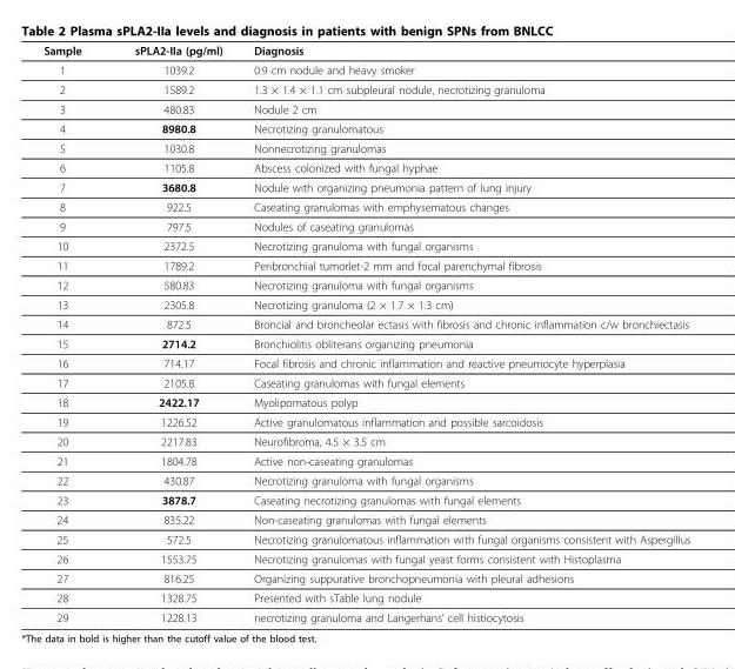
<table><thead><tr><td>Sample</td><td>sPLA2-IIa (pg/ml)</td><td>Diagnosis</td></tr></thead><tbody><tr><td>1</td><td>1039.2</td><td>0.9 cm nodule and heavy smoker</td></tr><tr><td>2</td><td>1589.2</td><td>1.3 × 1.4 × 1.1 cm subpleural nodule, necrotizing granuloma</td></tr><tr><td>3</td><td>480.83</td><td>Nodule 2 cm</td></tr><tr><td>4</td><td>8980.8</td><td>Necrotizing granulomatous</td></tr><tr><td>5</td><td>1030.8</td><td>Nonnecrotizing granulomas</td></tr><tr><td>6</td><td>1105.8</td><td>Abscess colonized with fungal hyphae</td></tr><tr><td>7</td><td>3680.8</td><td>Nodule with organizing pneumonia pattern of lung injury</td></tr><tr><td>8</td><td>922.5</td><td>Caseating granulomas with emphysematous changes</td></tr><tr><td>9</td><td>797.5</td><td>Nodules of caseating granulomas</td></tr><tr><td>10</td><td>2372.5</td><td>Necrotizing granuloma with fungal organisms</td></tr><tr><td>11</td><td>1789.2</td><td>Peribronchial tumorlet-2 mm and focal parenchymal fibrosis</td></tr><tr><td>12</td><td>580.83</td><td>Necrotizing granuloma with fungal organisms</td></tr><tr><td>13</td><td>2305.8</td><td>Necrotizing granuloma (2 × 1.7 × 1.3 cm)</td></tr><tr><td>14</td><td>872.5</td><td>Broncial and broncheolar ectasis with fibrosis and chronic inflammation c/w bronchiectasis</td></tr><tr><td>15</td><td>2714.2</td><td>Bronchiolitis obliterans organizing pneumonia</td></tr><tr><td>16</td><td>714.17</td><td>Focal fibrosis and chronic inflammation and reactive pneumocyte hyperplasia</td></tr><tr><td>17</td><td>2105.8</td><td>Caseating granulomas with fungal elements</td></tr><tr><td>18</td><td>2422.17</td><td>Myolipomatous polyp</td></tr><tr><td>19</td><td>1226.52</td><td>Active granulomatous inflammation and possible sarcoidosis</td></tr><tr><td>20</td><td>2217.83</td><td>Neurofibroma, 4.5 × 3.5 cm</td></tr><tr><td>21</td><td>1804.78</td><td>Active non-caseating granulomas</td></tr><tr><td>22</td><td>430.87</td><td>Necrotizing granuloma with fungal organisms</td></tr><tr><td>23</td><td>3878.7</td><td>Caseating necrotizing granulomas with fungal elements</td></tr><tr><td>24</td><td>835.22</td><td>Non-caseating granulomas with fungal elements</td></tr><tr><td>25</td><td>572.5</td><td>Necrotizing granulomatous inflammation with fungal organisms consistent with Aspergillus</td></tr><tr><td>26</td><td>1553.75</td><td>Necrotizing granulomas with fungal yeast forms consistent with Histoplasma</td></tr><tr><td>27</td><td>816.25</td><td>Organizing suppurative bronchopneumonia with pleural adhesions</td></tr><tr><td>28</td><td>1328.75</td><td>Presented with sTable lung nodule</td></tr><tr><td>29</td><td>1228.13</td><td>necrotizing granuloma and Langerhans’ cell histiocytosis</td></tr></tbody></table>